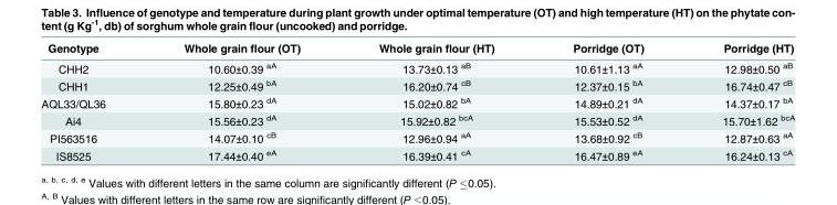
<table><thead><tr><td>Genotype</td><td>Whole grain flour (OT)</td><td>Whole grain flour (HT)</td><td>Porridge (OT)</td><td>Porridge (HT)</td></tr></thead><tbody><tr><td>CHH2</td><td>10.60±0.39 <sup>aA</sup></td><td>13.73±0.13 <sup>aB</sup></td><td>10.61±1.13 <sup>aA</sup></td><td>12.98±0.50 <sup>aB</sup></td></tr><tr><td>CHH1</td><td>12.25±0.49 <sup>bA</sup></td><td>16.20±0.74 <sup>cB</sup></td><td>12.37±0.15 <sup>bA</sup></td><td>16.74±0.47 <sup>cB</sup></td></tr><tr><td>AQL33/QL36</td><td>15.80±0.23 <sup>dA</sup></td><td>15.02±0.82 <sup>bA</sup></td><td>14.89±0.21 <sup>dA</sup></td><td>14.37±0.17 <sup>bA</sup></td></tr><tr><td>Ai4</td><td>15.56±0.23 <sup>dA</sup></td><td>15.92±0.82 <sup>bcA</sup></td><td>15.53±0.52 <sup>dA</sup></td><td>15.70±1.62 <sup>bcA</sup></td></tr><tr><td>PI563516</td><td>14.07±0.10 <sup>cB</sup></td><td>12.96±0.94 <sup>aA</sup></td><td>13.68±0.92 <sup>cB</sup></td><td>12.87±0.63 <sup>aA</sup></td></tr><tr><td>IS8525</td><td>17.44±0.40 <sup>eA</sup></td><td>16.39±0.41 <sup>cA</sup></td><td>16.47±0.89 <sup>eA</sup></td><td>16.24±0.13 <sup>cA</sup></td></tr></tbody></table>